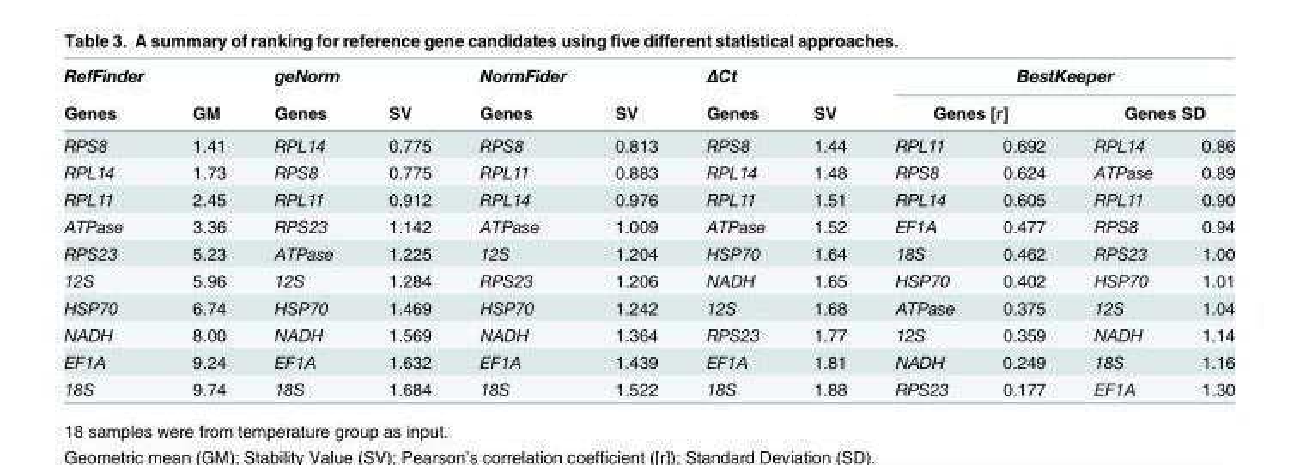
<table><thead><tr><td rowspan="3">RefFinder Genes RPS8</td><td rowspan="3">GM 1.41</td><td rowspan="3">geNorm Genes RPL14</td><td rowspan="3">SV 0.775</td><td rowspan="3">NormFider Genes RPS8</td><td rowspan="3">SV 0.813</td><td rowspan="3">ΔCt Genes RPS8</td><td rowspan="3">SV 1.44</td><td colspan="4">BestKeeper</td></tr><tr><td colspan="2">Genes [r]</td><td colspan="2">Genes SD</td></tr><tr><td>RPL11</td><td>0.692</td><td>RPL14</td><td>0.86</td></tr></thead><tbody><tr><td>RPL14</td><td>1.73</td><td>RPS8</td><td>0.775</td><td>RPL11</td><td>0.883</td><td>RPL14</td><td>1.48</td><td>RPS8</td><td>0.624</td><td>ATPase</td><td>0.89</td></tr><tr><td>RPL11</td><td>2.45</td><td>RPL11</td><td>0.912</td><td>RPL14</td><td>0.976</td><td>RPL11</td><td>1.51</td><td>RPL14</td><td>0.605</td><td>RPL11</td><td>0.90</td></tr><tr><td>ATPase</td><td>3.36</td><td>RPS23</td><td>1.142</td><td>ATPase</td><td>1.009</td><td>ATPase</td><td>1.52</td><td>EF1A</td><td>0.477</td><td>RPS8</td><td>0.94</td></tr><tr><td>RPS23</td><td>5.23</td><td>ATPase</td><td>1.225</td><td>12S</td><td>1.204</td><td>HSP70</td><td>1.64</td><td>18S</td><td>0.462</td><td>RPS23</td><td>1.00</td></tr><tr><td>12S</td><td>5.96</td><td>12S</td><td>1.284</td><td>RPS23</td><td>1.206</td><td>NADH</td><td>1.65</td><td>HSP70</td><td>0.402</td><td>HSP70</td><td>1.01</td></tr><tr><td>HSP70</td><td>6.74</td><td>HSP70</td><td>1.469</td><td>HSP70</td><td>1.242</td><td>12S</td><td>1.68</td><td>ATPase</td><td>0.375</td><td>12S</td><td>1.04</td></tr><tr><td>NADH</td><td>8.00</td><td>NADH</td><td>1.569</td><td>NADH</td><td>1.364</td><td>RPS23</td><td>1.77</td><td>12S</td><td>0.359</td><td>NADH</td><td>1.14</td></tr><tr><td>EF1A</td><td>9.24</td><td>EF1A</td><td>1.632</td><td>EF1A</td><td>1.439</td><td>EF1A</td><td>1.81</td><td>NADH</td><td>0.249</td><td>18S</td><td>1.16</td></tr><tr><td>18S</td><td>9.74</td><td>18S</td><td>1.684</td><td>18S</td><td>1.522</td><td>18S</td><td>1.88</td><td>RPS23</td><td>0.177</td><td>EF1A</td><td>1.30</td></tr></tbody></table>